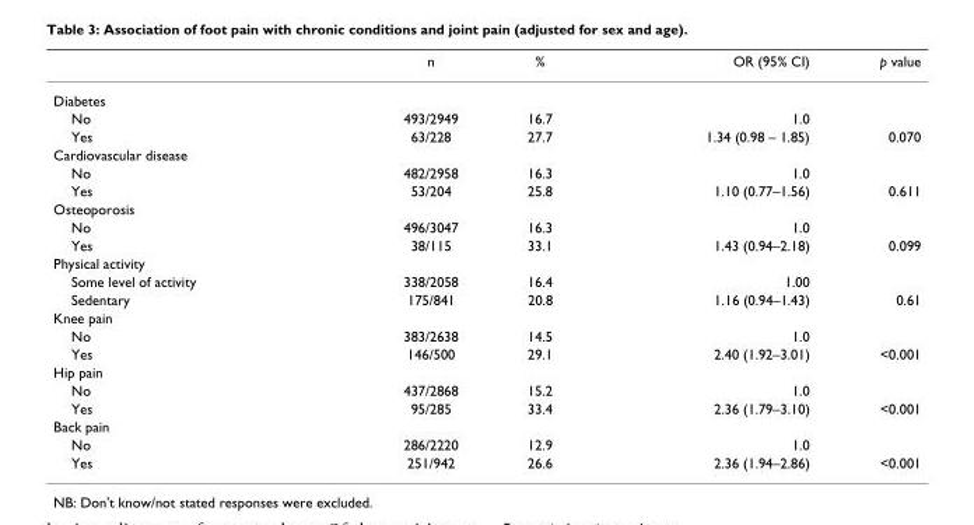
<table><thead><tr><td></td><td>n</td><td>%</td><td>OR (95% CI)</td><td>p value</td></tr></thead><tbody><tr><td colspan="5">Diabetes</td></tr><tr><td>No</td><td>493/2949</td><td>16.7</td><td>1.0</td><td></td></tr><tr><td>Yes</td><td>63/228</td><td>27.7</td><td>1.34 (0.98 – 1.85)</td><td>0.070</td></tr><tr><td colspan="5">Cardiovascular disease</td></tr><tr><td>No</td><td>482/2958</td><td>16.3</td><td>1.0</td><td></td></tr><tr><td>Yes</td><td>53/204</td><td>25.8</td><td>1.10 (0.77–1.56)</td><td>0.611</td></tr><tr><td colspan="5">Osteoporosis</td></tr><tr><td>No</td><td>496/3047</td><td>16.3</td><td>1.0</td><td></td></tr><tr><td>Yes</td><td>38/115</td><td>33.1</td><td>1.43 (0.94–2.18)</td><td>0.099</td></tr><tr><td colspan="5">Physical activity</td></tr><tr><td>Some level of activity</td><td>338/2058</td><td>16.4</td><td>1.00</td><td></td></tr><tr><td>Sedentary</td><td>175/841</td><td>20.8</td><td>1.16 (0.94–1.43)</td><td>0.61</td></tr><tr><td colspan="5">Knee pain</td></tr><tr><td>No</td><td>383/2638</td><td>14.5</td><td>1.0</td><td></td></tr><tr><td>Yes</td><td>146/500</td><td>29.1</td><td>2.40 (1.92–3.01)</td><td>&lt;0.001</td></tr><tr><td colspan="5">Hip pain</td></tr><tr><td>No</td><td>437/2868</td><td>15.2</td><td>1.0</td><td></td></tr><tr><td>Yes</td><td>95/285</td><td>33.4</td><td>2.36 (1.79–3.10)</td><td>&lt;0.001</td></tr><tr><td colspan="5">Back pain</td></tr><tr><td>No</td><td>286/2220</td><td>12.9</td><td>1.0</td><td></td></tr><tr><td>Yes</td><td>251/942</td><td>26.6</td><td>2.36 (1.94–2.86)</td><td>&lt;0.001</td></tr></tbody></table>